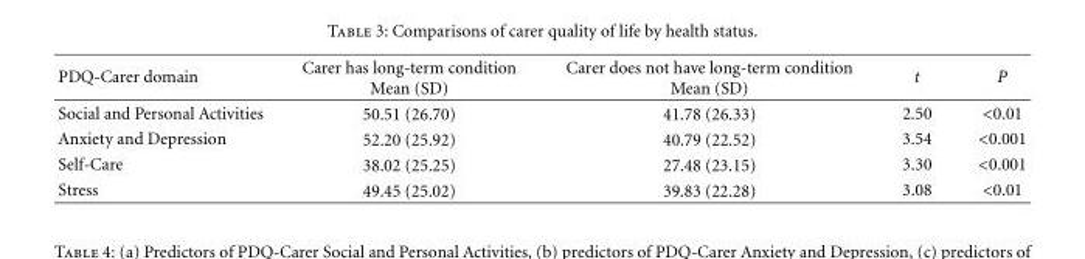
<table><thead><tr><td>PDQ-Carer domain</td><td>Carer has long-term condition Mean (SD)</td><td>Carer does not have long-term condition Mean (SD)</td><td>t</td><td>P</td></tr></thead><tbody><tr><td>Social and Personal Activities</td><td>50.51 (26.70)</td><td>41.78 (26.33)</td><td>2.50</td><td>&lt;0.01</td></tr><tr><td>Anxiety and Depression</td><td>52.20 (25.92)</td><td>40.79 (22.52)</td><td>3.54</td><td>&lt;0.001</td></tr><tr><td>Self-Care</td><td>38.02 (25.25)</td><td>27.48 (23.15)</td><td>3.30</td><td>&lt;0.001</td></tr><tr><td>Stress</td><td>49.45 (25.02)</td><td>39.83 (22.28)</td><td>3.08</td><td>&lt;0.01</td></tr></tbody></table>